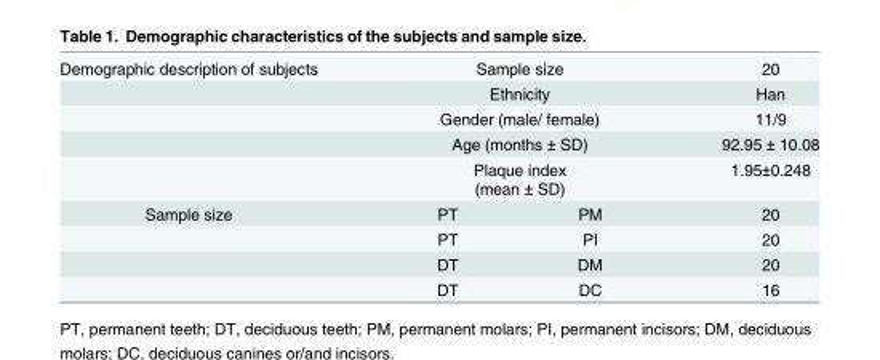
<table><tbody><tr><td rowspan="5">Demographic description of subjects</td><td colspan="2">Sample size</td><td>20</td></tr><tr><td colspan="2">Ethnicity</td><td>Han</td></tr><tr><td colspan="2">Gender (male/ female)</td><td>11/9</td></tr><tr><td colspan="2">Age (months ± SD)</td><td>92.95 ± 10.08</td></tr><tr><td colspan="2">Plaque index (mean ± SD)</td><td>1.95±0.248</td></tr><tr><td rowspan="4">Sample size</td><td>PT</td><td>PM</td><td>20</td></tr><tr><td>PT</td><td>PI</td><td>20</td></tr><tr><td>DT</td><td>DM</td><td>20</td></tr><tr><td>DT</td><td>DC</td><td>16</td></tr></tbody></table>